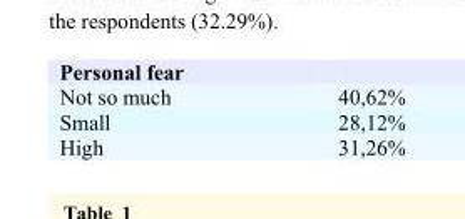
<table><thead><tr><td>Personal fear</td><td></td></tr></thead><tbody><tr><td>Not so much</td><td>40,62%</td></tr><tr><td>Small</td><td>28,12%</td></tr><tr><td>High</td><td>31,26%</td></tr></tbody></table>